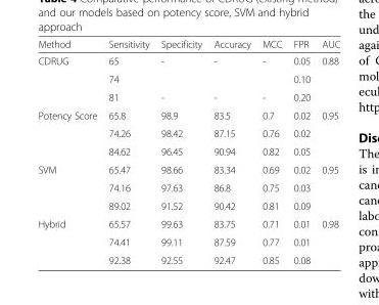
<table><thead><tr><td>Method</td><td>Sensitivity</td><td>Specificity</td><td>Accuracy</td><td>MCC</td><td>FPR</td><td>AUC</td></tr></thead><tbody><tr><td rowspan="3">CDRUG</td><td>65</td><td>-</td><td>-</td><td>-</td><td>0.05</td><td rowspan="3">0.88</td></tr><tr><td>74</td><td></td><td></td><td></td><td>0.10</td></tr><tr><td>81</td><td>-</td><td>-</td><td>-</td><td>0.20</td></tr><tr><td rowspan="3">Potency Score</td><td>65.8</td><td>98.9</td><td>83.5</td><td>0.7</td><td>0.02</td><td rowspan="3">0.95</td></tr><tr><td>74.26</td><td>98.42</td><td>87.15</td><td>0.76</td><td>0.02</td></tr><tr><td>84.62</td><td>96.45</td><td>90.94</td><td>0.82</td><td>0.05</td></tr><tr><td rowspan="3">SVM</td><td>65.47</td><td>98.66</td><td>83.34</td><td>0.69</td><td>0.02</td><td rowspan="3">0.95</td></tr><tr><td>74.16</td><td>97.63</td><td>86.8</td><td>0.75</td><td>0.03</td></tr><tr><td>89.02</td><td>91.52</td><td>90.42</td><td>0.81</td><td>0.09</td></tr><tr><td rowspan="3">Hybrid</td><td>65.57</td><td>99.63</td><td>83.75</td><td>0.71</td><td>0.01</td><td rowspan="3">0.98</td></tr><tr><td>74.41</td><td>99.11</td><td>87.59</td><td>0.77</td><td>0.01</td></tr><tr><td>92.38</td><td>92.55</td><td>92.47</td><td>0.85</td><td>0.08</td></tr></tbody></table>